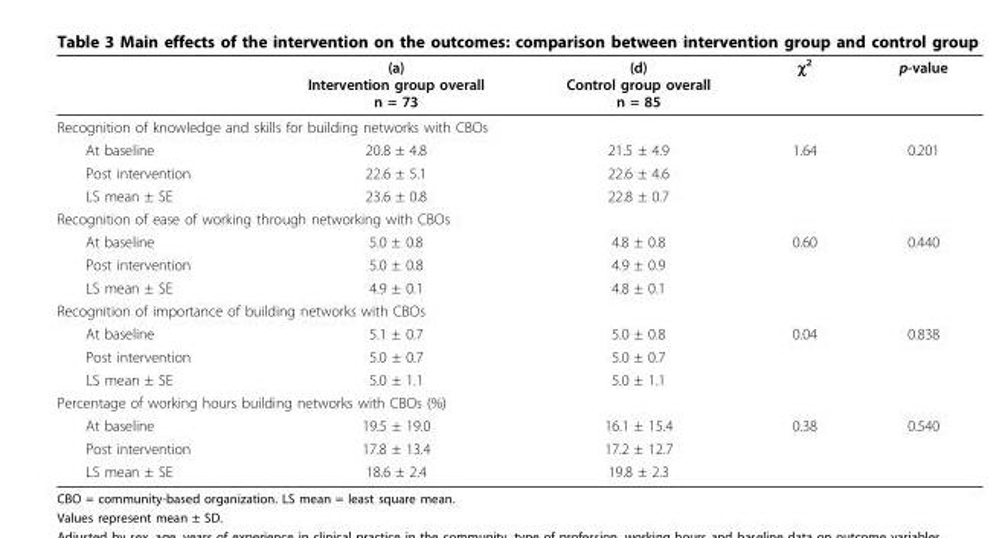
<table><thead><tr><td></td><td>(a) Intervention group overall n = 73</td><td>(d) Control group overall n = 85</td><td>χ<sup>2</sup></td><td>p-value</td></tr></thead><tbody><tr><td colspan="5">Recognition of knowledge and skills for building networks with CBOs</td></tr><tr><td>At baseline</td><td>20.8 ± 4.8</td><td>21.5 ± 4.9</td><td>1.64</td><td>0.201</td></tr><tr><td>Post intervention</td><td>22.6 ± 5.1</td><td>22.6 ± 4.6</td><td></td><td></td></tr><tr><td>LS mean ± SE</td><td>23.6 ± 0.8</td><td>22.8 ± 0.7</td><td></td><td></td></tr><tr><td colspan="5">Recognition of ease of working through networking with CBOs</td></tr><tr><td>At baseline</td><td>5.0 ± 0.8</td><td>4.8 ± 0.8</td><td>0.60</td><td>0.440</td></tr><tr><td>Post intervention</td><td>5.0 ± 0.8</td><td>4.9 ± 0.9</td><td></td><td></td></tr><tr><td>LS mean ± SE</td><td>4.9 ± 0.1</td><td>4.8 ± 0.1</td><td></td><td></td></tr><tr><td colspan="5">Recognition of importance of building networks with CBOs</td></tr><tr><td>At baseline</td><td>5.1 ± 0.7</td><td>5.0 ± 0.8</td><td>0.04</td><td>0.838</td></tr><tr><td>Post intervention</td><td>5.0 ± 0.7</td><td>5.0 ± 0.7</td><td></td><td></td></tr><tr><td>LS mean ± SE</td><td>5.0 ± 1.1</td><td>5.0 ± 1.1</td><td></td><td></td></tr><tr><td colspan="5">Percentage of working hours building networks with CBOs (%)</td></tr><tr><td>At baseline</td><td>19.5 ± 19.0</td><td>16.1 ± 15.4</td><td>0.38</td><td>0.540</td></tr><tr><td>Post intervention</td><td>17.8 ± 13.4</td><td>17.2 ± 12.7</td><td></td><td></td></tr><tr><td>LS mean ± SE</td><td>18.6 ± 2.4</td><td>19.8 ± 2.3</td><td></td><td></td></tr></tbody></table>